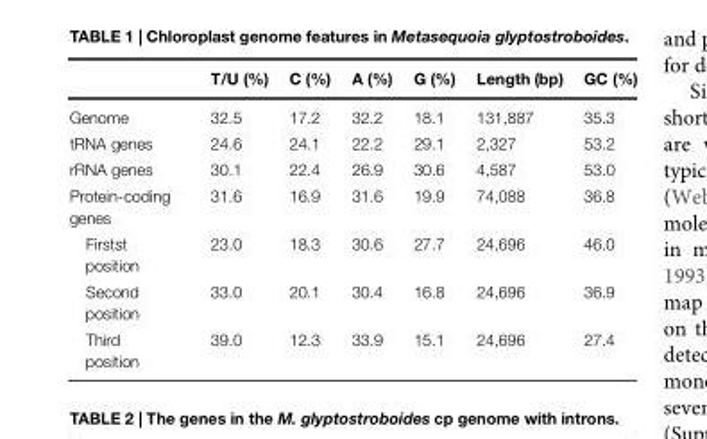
<table><thead><tr><td></td><td>T/U (%)</td><td>C (%)</td><td>A (%)</td><td>G (%)</td><td>Length (bp)</td><td>GC (%)</td></tr></thead><tbody><tr><td>Genome</td><td>32.5</td><td>17.2</td><td>32.2</td><td>18.1</td><td>131,887</td><td>35.3</td></tr><tr><td>tRNA genes</td><td>24.6</td><td>24.1</td><td>22.2</td><td>29.1</td><td>2,327</td><td>53.2</td></tr><tr><td>rRNA genes</td><td>30.1</td><td>22.4</td><td>26.9</td><td>30.6</td><td>4,587</td><td>53.0</td></tr><tr><td>Protein-coding genes</td><td>31.6</td><td>16.9</td><td>31.6</td><td>19.9</td><td>74,088</td><td>36.8</td></tr><tr><td>Firstst position</td><td>23.0</td><td>18.3</td><td>30.6</td><td>27.7</td><td>24,696</td><td>46.0</td></tr><tr><td>Second position</td><td>33.0</td><td>20.1</td><td>30.4</td><td>16.8</td><td>24,696</td><td>36.9</td></tr><tr><td>Third position</td><td>39.0</td><td>12.3</td><td>33.9</td><td>15.1</td><td>24,696</td><td>27.4</td></tr></tbody></table>